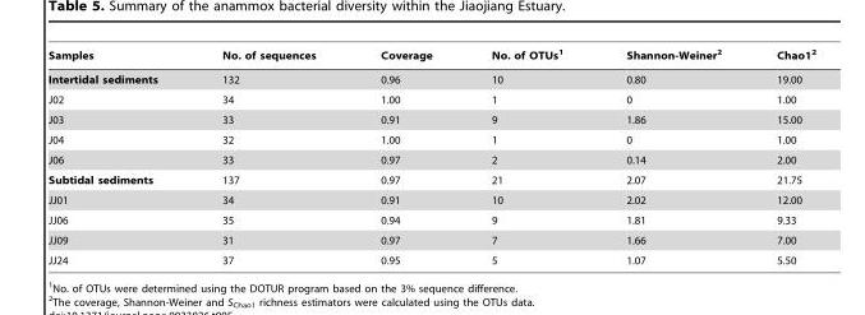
<table><thead><tr><td>Samples</td><td>No. of sequences</td><td>Coverage</td><td>No. of OTUs<sup>1</sup></td><td>Shannon-Weiner<sup>2</sup></td><td>Chao1<sup>2</sup></td></tr></thead><tbody><tr><td>Intertidal sediments</td><td>132</td><td>0.96</td><td>10</td><td>0.80</td><td>19.00</td></tr><tr><td>J02</td><td>34</td><td>1.00</td><td>1</td><td>0</td><td>1.00</td></tr><tr><td>J03</td><td>33</td><td>0.91</td><td>9</td><td>1.86</td><td>15.00</td></tr><tr><td>J04</td><td>32</td><td>1.00</td><td>1</td><td>0</td><td>1.00</td></tr><tr><td>J06</td><td>33</td><td>0.97</td><td>2</td><td>0.14</td><td>2.00</td></tr><tr><td>Subtidal sediments</td><td>137</td><td>0.97</td><td>21</td><td>2.07</td><td>21.75</td></tr><tr><td>JJ01</td><td>34</td><td>0.91</td><td>10</td><td>2.02</td><td>12.00</td></tr><tr><td>JJ06</td><td>35</td><td>0.94</td><td>9</td><td>1.81</td><td>9.33</td></tr><tr><td>JJ09</td><td>31</td><td>0.97</td><td>7</td><td>1.66</td><td>7.00</td></tr><tr><td>JJ24</td><td>37</td><td>0.95</td><td>5</td><td>1.07</td><td>5.50</td></tr></tbody></table>